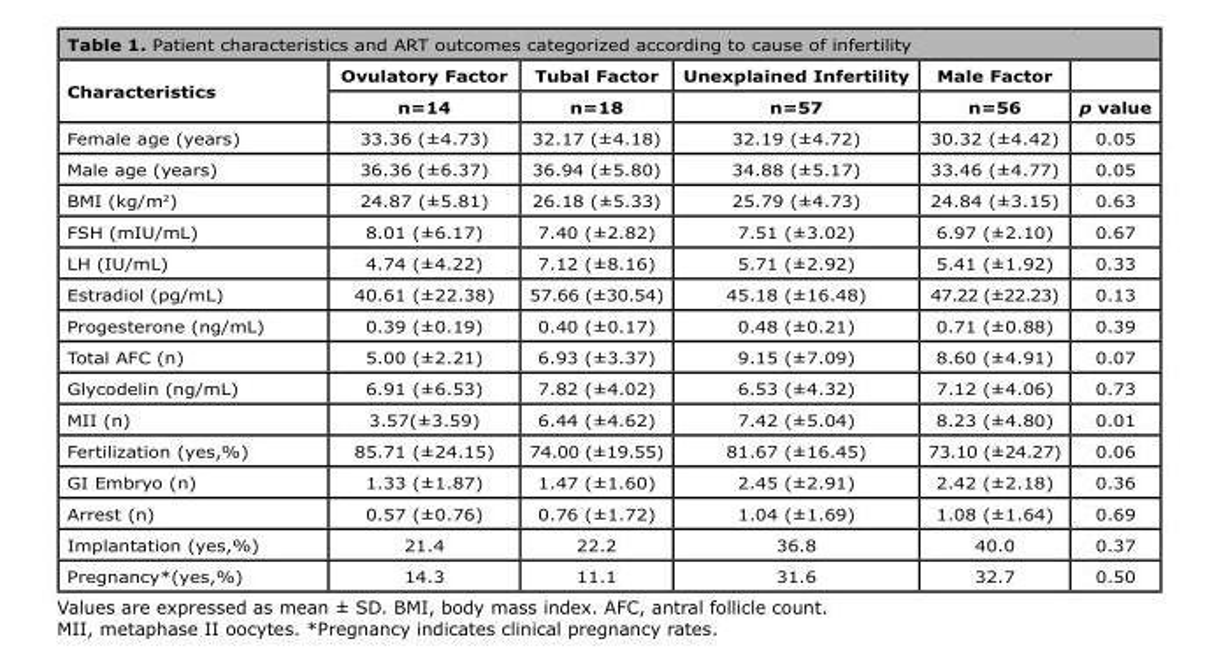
<table><thead><tr><td rowspan="2">Characteristics</td><td rowspan="2">Ovulatory Factor n=14</td><td rowspan="2">Tubal Factor n=18</td><td rowspan="2">Unexplained Infertility n=57</td><td rowspan="2">Male Factor n=56</td><td rowspan="2">p value</td></tr><tr></tr></thead><tbody><tr><td>Female age (years)</td><td>33.36 (±4.73)</td><td>32.17 (±4.18)</td><td>32.19 (±4.72)</td><td>30.32 (±4.42)</td><td>0.05</td></tr><tr><td>Male age (years)</td><td>36.36 (±6.37)</td><td>36.94 (±5.80)</td><td>34.88 (±5.17)</td><td>33.46 (±4.77)</td><td>0.05</td></tr><tr><td>BMI (kg/m<sup>2</sup>)</td><td>24.87 (±5.81)</td><td>26.18 (±5.33)</td><td>25.79 (±4.73)</td><td>24.84 (±3.15)</td><td>0.63</td></tr><tr><td>FSH (mIU/mL)</td><td>8.01 (±6.17)</td><td>7.40 (±2.82)</td><td>7.51 (±3.02)</td><td>6.97 (±2.10)</td><td>0.67</td></tr><tr><td>LH (IU/mL)</td><td>4.74 (±4.22)</td><td>7.12 (±8.16)</td><td>5.71 (±2.92)</td><td>5.41 (±1.92)</td><td>0.33</td></tr><tr><td>Estradiol (pg/mL)</td><td>40.61 (±22.38)</td><td>57.66 (±30.54)</td><td>45.18 (±16.48)</td><td>47.22 (±22.23)</td><td>0.13</td></tr><tr><td>Progesterone (ng/mL)</td><td>0.39 (±0.19)</td><td>0.40 (±0.17)</td><td>0.48 (±0.21)</td><td>0.71 (±0.88)</td><td>0.39</td></tr><tr><td>Total AFC (n)</td><td>5.00 (±2.21)</td><td>6.93 (±3.37)</td><td>9.15 (±7.09)</td><td>8.60 (±4.91)</td><td>0.07</td></tr><tr><td>Glycodelin (ng/mL)</td><td>6.91 (±6.53)</td><td>7.82 (±4.02)</td><td>6.53 (±4.32)</td><td>7.12 (±4.06)</td><td>0.73</td></tr><tr><td>MII (n)</td><td>3.57(±3.59)</td><td>6.44 (±4.62)</td><td>7.42 (±5.04)</td><td>8.23 (±4.80)</td><td>0.01</td></tr><tr><td>Fertilization (yes,%)</td><td>85.71 (±24.15)</td><td>74.00 (±19.55)</td><td>81.67 (±16.45)</td><td>73.10 (±24.27)</td><td>0.06</td></tr><tr><td>GI Embryo (n)</td><td>1.33 (±1.87)</td><td>1.47 (±1.60)</td><td>2.45 (±2.91)</td><td>2.42 (±2.18)</td><td>0.36</td></tr><tr><td>Arrest (n)</td><td>0.57 (±0.76)</td><td>0.76 (±1.72)</td><td>1.04 (±1.69)</td><td>1.08 (±1.64)</td><td>0.69</td></tr><tr><td>Implantation (yes,%)</td><td>21.4</td><td>22.2</td><td>36.8</td><td>40.0</td><td>0.37</td></tr><tr><td>Pregnancy*(yes,%)</td><td>14.3</td><td>11.1</td><td>31.6</td><td>32.7</td><td>0.50</td></tr></tbody></table>